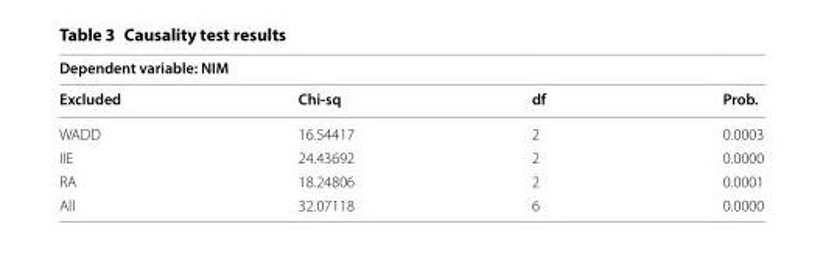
<table><thead><tr><td colspan="4">Dependent variable: NIM</td></tr><tr><td>Excluded</td><td>Chi-sq</td><td>df</td><td>Prob.</td></tr></thead><tbody><tr><td>WADD</td><td>16.54417</td><td>2</td><td>0.0003</td></tr><tr><td>IIE</td><td>24.43692</td><td>2</td><td>0.0000</td></tr><tr><td>RA</td><td>18.24806</td><td>2</td><td>0.0001</td></tr><tr><td>All</td><td>32.07118</td><td>6</td><td>0.0000</td></tr></tbody></table>